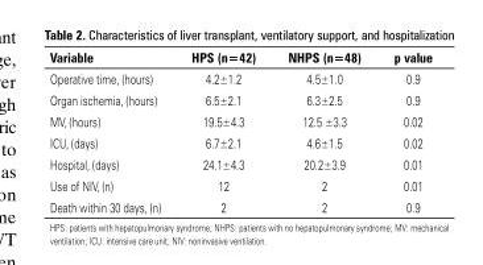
<table><thead><tr><td>Variable</td><td>HPS (n=42)</td><td>NHPS (n=48)</td><td>p value</td></tr></thead><tbody><tr><td>Operative time, (hours)</td><td>4.2±1.2</td><td>4.5±1.0</td><td>0.9</td></tr><tr><td>Organ ischemia, (hours)</td><td>6.5±2.1</td><td>6.3±2.5</td><td>0.9</td></tr><tr><td>MV, (hours)</td><td>19.5±4.3</td><td>12.5 ±3.3</td><td>0.02</td></tr><tr><td>ICU, (days)</td><td>6.7±2.1</td><td>4.6±1.5</td><td>0.02</td></tr><tr><td>Hospital, (days)</td><td>24.1±4.3</td><td>20.2±3.9</td><td>0.01</td></tr><tr><td>Use of NIV, (n)</td><td>12</td><td>2</td><td>0.01</td></tr><tr><td>Death within 30 days, (n)</td><td>2</td><td>2</td><td>0.9</td></tr></tbody></table>